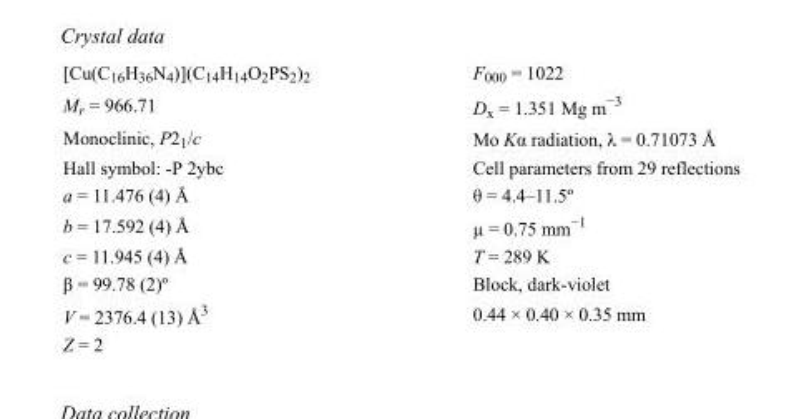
<table><tbody><tr><td>[Cu(C<sub>16</sub>H<sub>36</sub>N<sub>4</sub>)](C<sub>14</sub>H<sub>14</sub>O<sub>2</sub>PS<sub>2</sub>)<sub>2</sub></td><td>F000 = 1022</td></tr><tr><td>M<sub>r</sub> = 966.71</td><td>D<sub>x</sub> = 1.351 Mg m<sup>−3</sup></td></tr><tr><td>Monoclinic, P2<sub>1</sub>/c</td><td>Mo Kα radiation, λ = 0.71073 Å</td></tr><tr><td>Hall symbol: -P 2ybc</td><td>Cell parameters from 29 reflections</td></tr><tr><td>a = 11.476 (4) Å</td><td>θ = 4.4–11.5º</td></tr><tr><td>b = 17.592 (4) Å</td><td>µ = 0.75 mm<sup>−1</sup></td></tr><tr><td>c = 11.945 (4) Å</td><td>T = 289 K</td></tr><tr><td>β = 99.78 (2)º</td><td>Block, dark-violet</td></tr><tr><td>V = 2376.4 (13) Å<sup>3</sup></td><td>0.44 × 0.40 × 0.35 mm</td></tr><tr><td>Z = 2</td><td></td></tr></tbody></table>